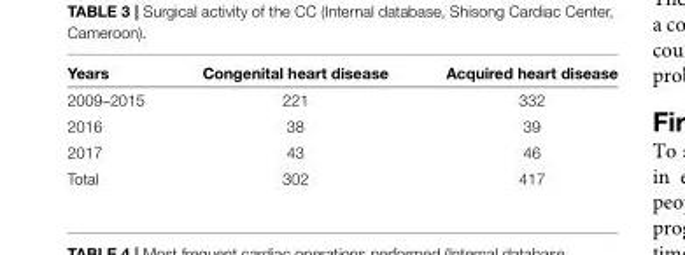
<table><thead><tr><td>Years</td><td>Congenital heart disease</td><td>Acquired heart disease</td></tr></thead><tbody><tr><td>2009–2015</td><td>221</td><td>332</td></tr><tr><td>2016</td><td>38</td><td>39</td></tr><tr><td>2017</td><td>43</td><td>46</td></tr><tr><td>Total</td><td>302</td><td>417</td></tr></tbody></table>